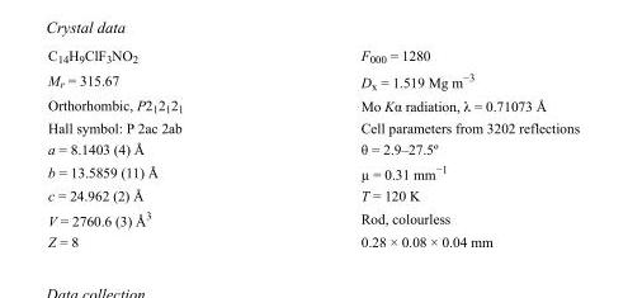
<table><tbody><tr><td>C<sub>14</sub>H<sub>9</sub>ClF<sub>3</sub>NO<sub>2</sub></td><td>F000 = 1280</td></tr><tr><td>M<sub>r</sub> = 315.67</td><td>D<sub>x</sub> = 1.519 Mg m<sup>−3</sup></td></tr><tr><td>Orthorhombic, P2<sub>1</sub>2<sub>1</sub>2<sub>1</sub></td><td>Mo Kα radiation, λ = 0.71073 Å</td></tr><tr><td>Hall symbol: P 2ac 2ab</td><td>Cell parameters from 3202 reflections</td></tr><tr><td>a = 8.1403 (4) Å</td><td>θ = 2.9–27.5º</td></tr><tr><td>b = 13.5859 (11) Å</td><td>µ = 0.31 mm<sup>−1</sup></td></tr><tr><td>c = 24.962 (2) Å</td><td>T = 120 K</td></tr><tr><td>V = 2760.6 (3) Å<sup>3</sup></td><td>Rod, colourless</td></tr><tr><td>Z = 8</td><td>0.28 × 0.08 × 0.04 mm</td></tr></tbody></table>